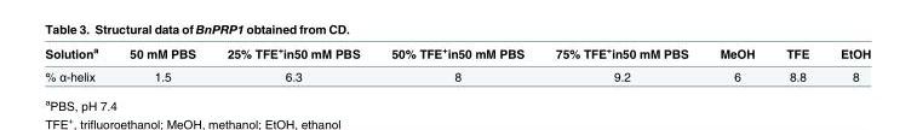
<table><thead><tr><td>Solution<sup>a</sup></td><td>50 mM PBS</td><td>25% TFE<sup>+</sup>in50 mM PBS</td><td>50% TFE<sup>+</sup>in50 mM PBS</td><td>75% TFE<sup>+</sup>in50 mM PBS</td><td>MeOH</td><td>TFE</td><td>EtOH</td></tr></thead><tbody><tr><td>% α-helix</td><td>1.5</td><td>6.3</td><td>8</td><td>9.2</td><td>6</td><td>8.8</td><td>8</td></tr></tbody></table>